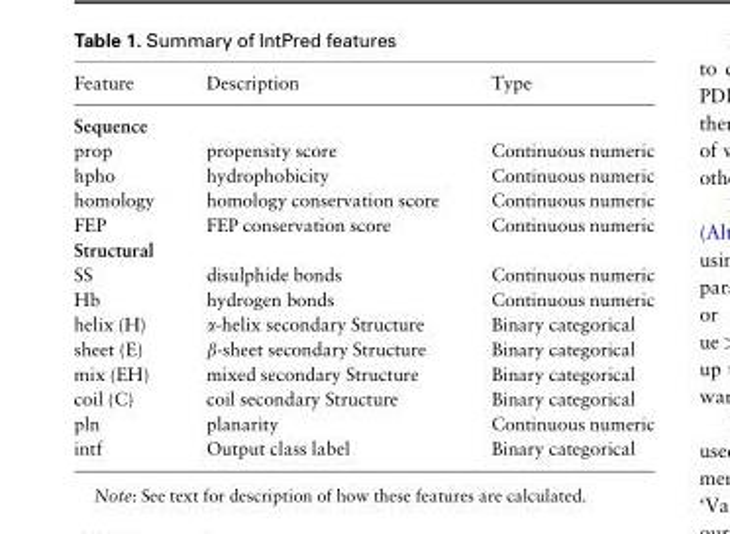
<table><thead><tr><td>Feature</td><td>Description</td><td>Type</td></tr></thead><tbody><tr><td colspan="3">Sequence</td></tr><tr><td>prop</td><td>propensity score</td><td>Continuous numeric</td></tr><tr><td>hpho</td><td>hydrophobicity</td><td>Continuous numeric</td></tr><tr><td>homology</td><td>homology conservation score</td><td>Continuous numeric</td></tr><tr><td>FEP</td><td>FEP conservation score</td><td>Continuous numeric</td></tr><tr><td colspan="3">Structural</td></tr><tr><td>SS</td><td>disulphide bonds</td><td>Continuous numeric</td></tr><tr><td>Hb</td><td>hydrogen bonds</td><td>Continuous numeric</td></tr><tr><td>helix (H)</td><td>α-helix secondary Structure</td><td>Binary categorical</td></tr><tr><td>sheet (E)</td><td>β-sheet secondary Structure</td><td>Binary categorical</td></tr><tr><td>mix (EH)</td><td>mixed secondary Structure</td><td>Binary categorical</td></tr><tr><td>coil (C)</td><td>coil secondary Structure</td><td>Binary categorical</td></tr><tr><td>pln</td><td>planarity</td><td>Continuous numeric</td></tr><tr><td>intf</td><td>Output class label</td><td>Binary categorical</td></tr></tbody></table>